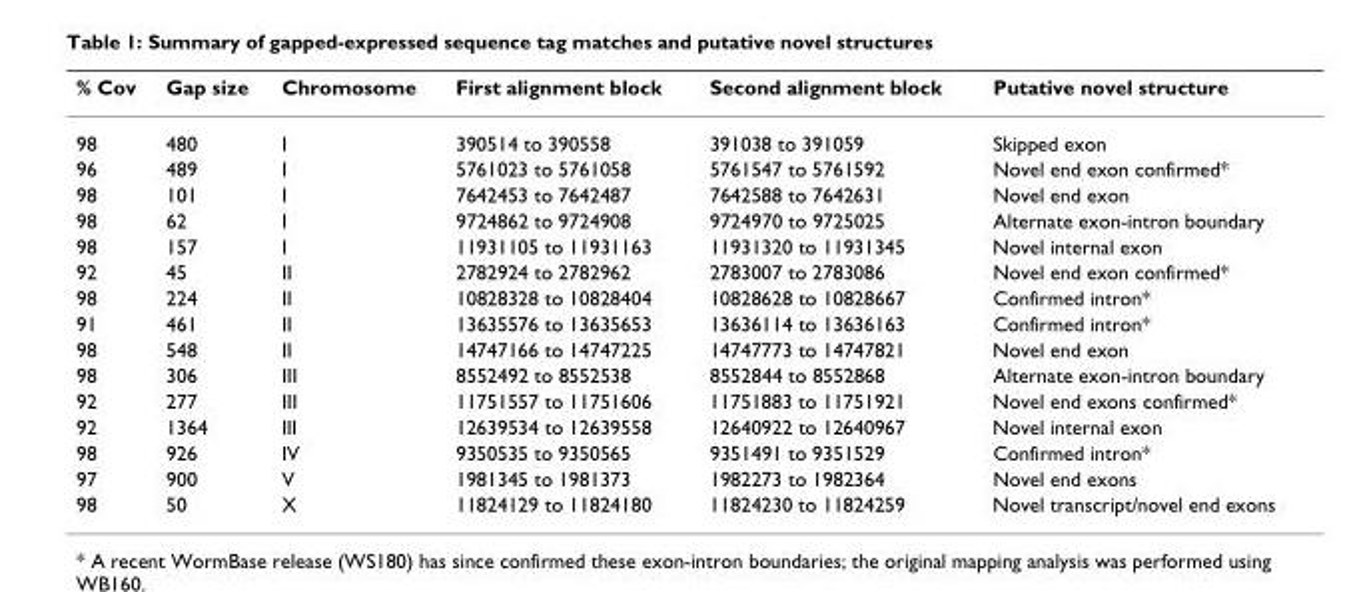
<table><thead><tr><td>% Cov</td><td>Gap size</td><td>Chromosome</td><td>First alignment block</td><td>Second alignment block</td><td>Putative novel structure</td></tr></thead><tbody><tr><td>98</td><td>480</td><td>I</td><td>390514 to 390558</td><td>391038 to 391059</td><td>Skipped exon</td></tr><tr><td>96</td><td>489</td><td>I</td><td>5761023 to 5761058</td><td>5761547 to 5761592</td><td>Novel end exon confirmed*</td></tr><tr><td>98</td><td>101</td><td>I</td><td>7642453 to 7642487</td><td>7642588 to 7642631</td><td>Novel end exon</td></tr><tr><td>98</td><td>62</td><td>I</td><td>9724862 to 9724908</td><td>9724970 to 9725025</td><td>Alternate exon-intron boundary</td></tr><tr><td>98</td><td>157</td><td>I</td><td>11931105 to 11931163</td><td>11931320 to 11931345</td><td>Novel internal exon</td></tr><tr><td>92</td><td>45</td><td>II</td><td>2782924 to 2782962</td><td>2783007 to 2783086</td><td>Novel end exon confirmed*</td></tr><tr><td>98</td><td>224</td><td>II</td><td>10828328 to 10828404</td><td>10828628 to 10828667</td><td>Confirmed intron*</td></tr><tr><td>91</td><td>461</td><td>II</td><td>13635576 to 13635653</td><td>13636114 to 13636163</td><td>Confirmed intron*</td></tr><tr><td>98</td><td>548</td><td>II</td><td>14747166 to 14747225</td><td>14747773 to 14747821</td><td>Novel end exon</td></tr><tr><td>98</td><td>306</td><td>III</td><td>8552492 to 8552538</td><td>8552844 to 8552868</td><td>Alternate exon-intron boundary</td></tr><tr><td>92</td><td>277</td><td>III</td><td>11751557 to 11751606</td><td>11751883 to 11751921</td><td>Novel end exons confirmed*</td></tr><tr><td>92</td><td>1364</td><td>III</td><td>12639534 to 12639558</td><td>12640922 to 12640967</td><td>Novel internal exon</td></tr><tr><td>98</td><td>926</td><td>IV</td><td>9350535 to 9350565</td><td>9351491 to 9351529</td><td>Confirmed intron*</td></tr><tr><td>97</td><td>900</td><td>V</td><td>1981345 to 1981373</td><td>1982273 to 1982364</td><td>Novel end exons</td></tr><tr><td>98</td><td>50</td><td>X</td><td>11824129 to 11824180</td><td>11824230 to 11824259</td><td>Novel transcript/novel end exons</td></tr></tbody></table>